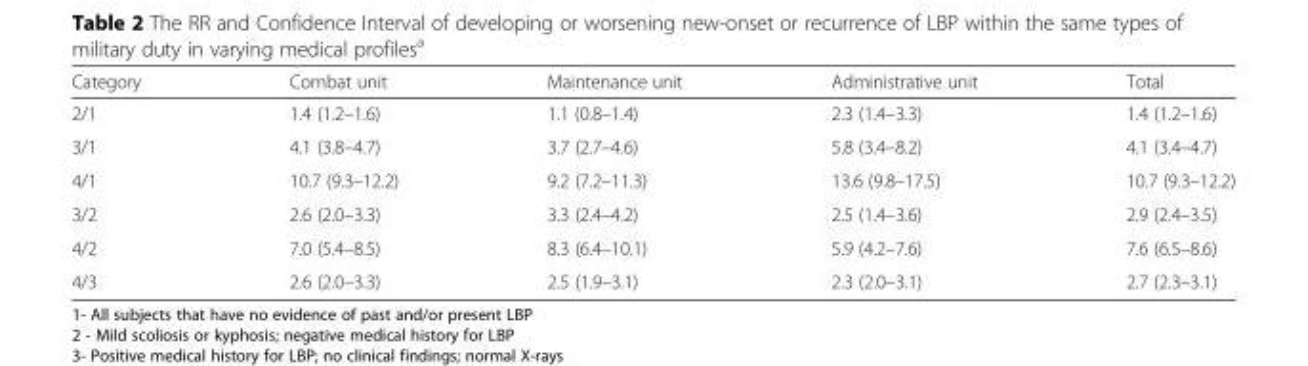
<table><thead><tr><td>Category</td><td>Combat unit</td><td>Maintenance unit</td><td>Administrative unit</td><td>Total</td></tr></thead><tbody><tr><td>2/1</td><td>1.4 (1.2–1.6)</td><td>1.1 (0.8–1.4)</td><td>2.3 (1.4–3.3)</td><td>1.4 (1.2–1.6)</td></tr><tr><td>3/1</td><td>4.1 (3.8–4.7)</td><td>3.7 (2.7–4.6)</td><td>5.8 (3.4–8.2)</td><td>4.1 (3.4–4.7)</td></tr><tr><td>4/1</td><td>10.7 (9.3–12.2)</td><td>9.2 (7.2–11.3)</td><td>13.6 (9.8–17.5)</td><td>10.7 (9.3–12.2)</td></tr><tr><td>3/2</td><td>2.6 (2.0–3.3)</td><td>3.3 (2.4–4.2)</td><td>2.5 (1.4–3.6)</td><td>2.9 (2.4–3.5)</td></tr><tr><td>4/2</td><td>7.0 (5.4–8.5)</td><td>8.3 (6.4–10.1)</td><td>5.9 (4.2–7.6)</td><td>7.6 (6.5–8.6)</td></tr><tr><td>4/3</td><td>2.6 (2.0–3.3)</td><td>2.5 (1.9–3.1)</td><td>2.3 (2.0–3.1)</td><td>2.7 (2.3–3.1)</td></tr></tbody></table>